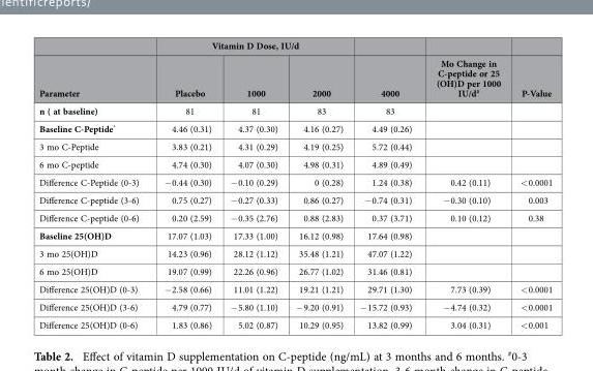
<table><thead><tr><td rowspan="2">Parameter</td><td colspan="3">Vitamin D Dose, IU/d</td><td rowspan="2">4000</td><td rowspan="2">Mo Change in C-peptide or 25 (OH)D per 1000 IU/d#</td><td rowspan="2">P-Value</td></tr><tr><td>Placebo</td><td>1000</td><td>2000</td></tr></thead><tbody><tr><td>n ( at baseline)</td><td>81</td><td>81</td><td>83</td><td>83</td><td></td><td></td></tr><tr><td>Baseline C-Peptide*</td><td>4.46 (0.31)</td><td>4.37 (0.30)</td><td>4.16 (0.27)</td><td>4.49 (0.26)</td><td></td><td></td></tr><tr><td>3 mo C-Peptide</td><td>3.83 (0.21)</td><td>4.31 (0.29)</td><td>4.19 (0.25)</td><td>5.72 (0.44)</td><td></td><td></td></tr><tr><td>6 mo C-peptide</td><td>4.74 (0.30)</td><td>4.07 (0.30)</td><td>4.98 (0.31)</td><td>4.89 (0.49)</td><td></td><td></td></tr><tr><td>Difference C-Peptide (0-3)</td><td>− 0.44 (0.30)</td><td>− 0.10 (0.29)</td><td>0 (0.28)</td><td>1.24 (0.38)</td><td>0.42 (0.11)</td><td>&lt; 0.0001</td></tr><tr><td>Difference C-peptide (3-6)</td><td>0.75 (0.27)</td><td>− 0.27 (0.33)</td><td>0.86 (0.27)</td><td>− 0.74 (0.31)</td><td>− 0.30 (0.10)</td><td>0.003</td></tr><tr><td>Difference C-peptide (0-6)</td><td>0.20 (2.59)</td><td>− 0.35 (2.76)</td><td>0.88 (2.83)</td><td>0.37 (3.71)</td><td>0.10 (0.12)</td><td>0.38</td></tr><tr><td>Baseline 25(OH)D</td><td>17.07 (1.03)</td><td>17.33 (1.00)</td><td>16.12 (0.98)</td><td>17.64 (0.98)</td><td></td><td></td></tr><tr><td>3 mo 25(OH)D</td><td>14.23 (0.96)</td><td>28.12 (1.12)</td><td>35.48 (1.21)</td><td>47.07 (1.22)</td><td></td><td></td></tr><tr><td>6 mo 25(OH)D</td><td>19.07 (0.99)</td><td>22.26 (0.96)</td><td>26.77 (1.02)</td><td>31.46 (0.81)</td><td></td><td></td></tr><tr><td>Difference 25(OH)D (0-3)</td><td>− 2.58 (0.66)</td><td>11.01 (1.22)</td><td>19.21 (1.21)</td><td>29.71 (1.30)</td><td>7.73 (0.39)</td><td>&lt; 0.0001</td></tr><tr><td>Difference 25(OH)D (3-6)</td><td>4.79 (0.77)</td><td>− 5.80 (1.10)</td><td>− 9.20 (0.91)</td><td>− 15.72 (0.93)</td><td>− 4.74 (0.32)</td><td>&lt; 0.0001</td></tr><tr><td>Difference 25(OH)D (0-6)</td><td>1.83 (0.86)</td><td>5.02 (0.87)</td><td>10.29 (0.95)</td><td>13.82 (0.99)</td><td>3.04 (0.31)</td><td>&lt; 0.001</td></tr></tbody></table>